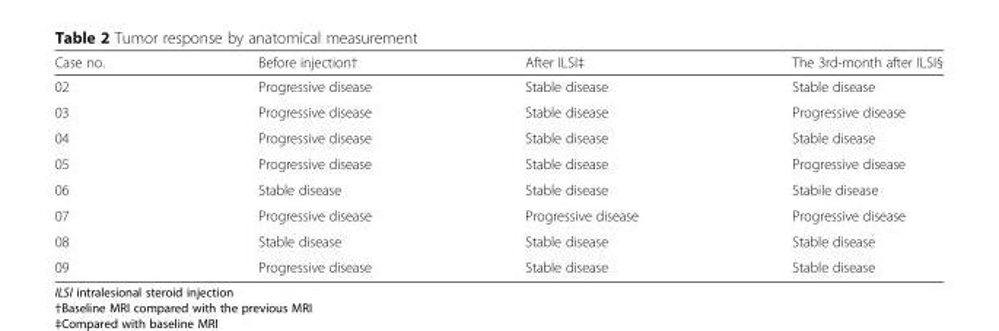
<table><thead><tr><td>Case no.</td><td>Before injection†</td><td>After ILSI‡</td><td>The 3rd-month after ILSI§</td></tr></thead><tbody><tr><td>02</td><td>Progressive disease</td><td>Stable disease</td><td>Stable disease</td></tr><tr><td>03</td><td>Progressive disease</td><td>Stable disease</td><td>Progressive disease</td></tr><tr><td>04</td><td>Progressive disease</td><td>Stable disease</td><td>Stable disease</td></tr><tr><td>05</td><td>Progressive disease</td><td>Stable disease</td><td>Progressive disease</td></tr><tr><td>06</td><td>Stable disease</td><td>Stable disease</td><td>Stabile disease</td></tr><tr><td>07</td><td>Progressive disease</td><td>Progressive disease</td><td>Progressive disease</td></tr><tr><td>08</td><td>Stable disease</td><td>Stable disease</td><td>Stable disease</td></tr><tr><td>09</td><td>Progressive disease</td><td>Stable disease</td><td>Stable disease</td></tr></tbody></table>